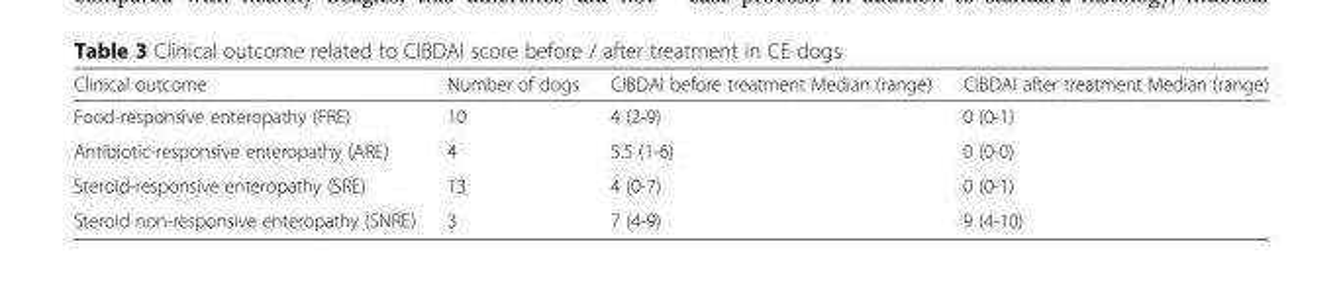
<table><thead><tr><td>Clinical outcome</td><td>Number of dogs</td><td>CIBDAI before treatment Median (range)</td><td>CIBDAI after treatment Median (range)</td></tr></thead><tbody><tr><td>Food-responsive enteropathy (FRE)</td><td>10</td><td>4 (2-9)</td><td>0 (0-1)</td></tr><tr><td>Antibiotic-responsive enteropathy (ARE)</td><td>4</td><td>5.5 (1-6)</td><td>0 (0-0)</td></tr><tr><td>Steroid-responsive enteropathy (SRE)</td><td>13</td><td>4 (0-7)</td><td>0 (0-1)</td></tr><tr><td>Steroid non-responsive enteropathy (SNRE)</td><td>3</td><td>7 (4-9)</td><td>9 (4-10)</td></tr></tbody></table>